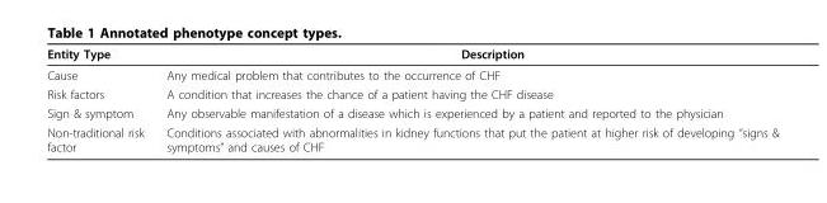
<table><thead><tr><td>Entity Type</td><td>Description</td></tr></thead><tbody><tr><td>Cause</td><td>Any medical problem that contributes to the occurrence of CHF</td></tr><tr><td>Risk factors</td><td>A condition that increases the chance of a patient having the CHF disease</td></tr><tr><td>Sign &amp; symptom</td><td>Any observable manifestation of a disease which is experienced by a patient and reported to the physician</td></tr><tr><td>Non-traditional risk factor</td><td>Conditions associated with abnormalities in kidney functions that put the patient at higher risk of developing “signs &amp; symptoms” and causes of CHF</td></tr></tbody></table>